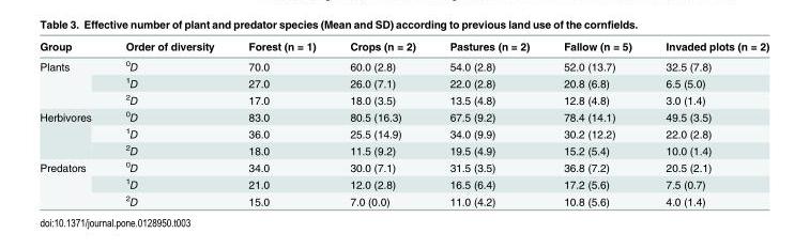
<table><thead><tr><td>Group</td><td>Order of diversity</td><td>Forest (n = 1)</td><td>Crops (n = 2)</td><td>Pastures (n = 2)</td><td>Fallow (n = 5)</td><td>Invaded plots (n = 2)</td></tr></thead><tbody><tr><td rowspan="3">Plants</td><td><sup>0</sup>D</td><td>70.0</td><td>60.0 (2.8)</td><td>54.0 (2.8)</td><td>52.0 (13.7)</td><td>32.5 (7.8)</td></tr><tr><td><sup>1</sup>D</td><td>27.0</td><td>26.0 (7.1)</td><td>22.0 (2.8)</td><td>20.8 (6.8)</td><td>6.5 (5.0)</td></tr><tr><td><sup>2</sup>D</td><td>17.0</td><td>18.0 (3.5)</td><td>13.5 (4.8)</td><td>12.8 (4.8)</td><td>3.0 (1.4)</td></tr><tr><td rowspan="3">Herbivores</td><td><sup>0</sup>D</td><td>83.0</td><td>80.5 (16.3)</td><td>67.5 (9.2)</td><td>78.4 (14.1)</td><td>49.5 (3.5)</td></tr><tr><td><sup>1</sup>D</td><td>36.0</td><td>25.5 (14.9)</td><td>34.0 (9.9)</td><td>30.2 (12.2)</td><td>22.0 (2.8)</td></tr><tr><td><sup>2</sup>D</td><td>18.0</td><td>11.5 (9.2)</td><td>19.5 (4.9)</td><td>15.2 (5.4)</td><td>10.0 (1.4)</td></tr><tr><td rowspan="3">Predators</td><td><sup>0</sup>D</td><td>34.0</td><td>30.0 (7.1)</td><td>31.5 (3.5)</td><td>36.8 (7.2)</td><td>20.5 (2.1)</td></tr><tr><td><sup>1</sup>D</td><td>21.0</td><td>12.0 (2.8)</td><td>16.5 (6.4)</td><td>17.2 (5.6)</td><td>7.5 (0.7)</td></tr><tr><td><sup>2</sup>D</td><td>15.0</td><td>7.0 (0.0)</td><td>11.0 (4.2)</td><td>10.8 (5.6)</td><td>4.0 (1.4)</td></tr></tbody></table>